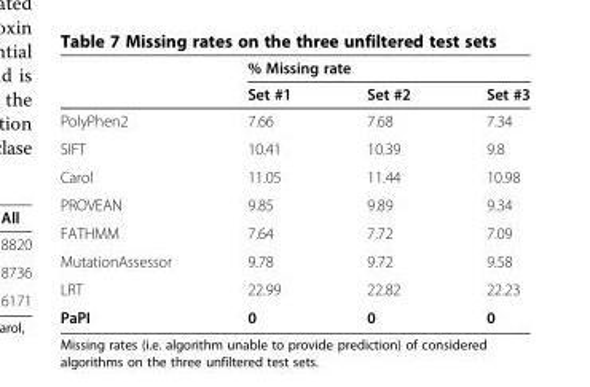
<table><thead><tr><td rowspan="2"></td><td colspan="3">% Missing rate</td></tr><tr><td>Set #1</td><td>Set #2</td><td>Set #3</td></tr></thead><tbody><tr><td>PolyPhen2</td><td>7.66</td><td>7.68</td><td>7.34</td></tr><tr><td>SIFT</td><td>10.41</td><td>10.39</td><td>9.8</td></tr><tr><td>Carol</td><td>11.05</td><td>11.44</td><td>10.98</td></tr><tr><td>PROVEAN</td><td>9.85</td><td>9.89</td><td>9.34</td></tr><tr><td>FATHMM</td><td>7.64</td><td>7.72</td><td>7.09</td></tr><tr><td>MutationAssessor</td><td>9.78</td><td>9.72</td><td>9.58</td></tr><tr><td>LRT</td><td>22.99</td><td>22.82</td><td>22.23</td></tr><tr><td>PaPI</td><td>0</td><td>0</td><td>0</td></tr></tbody></table>